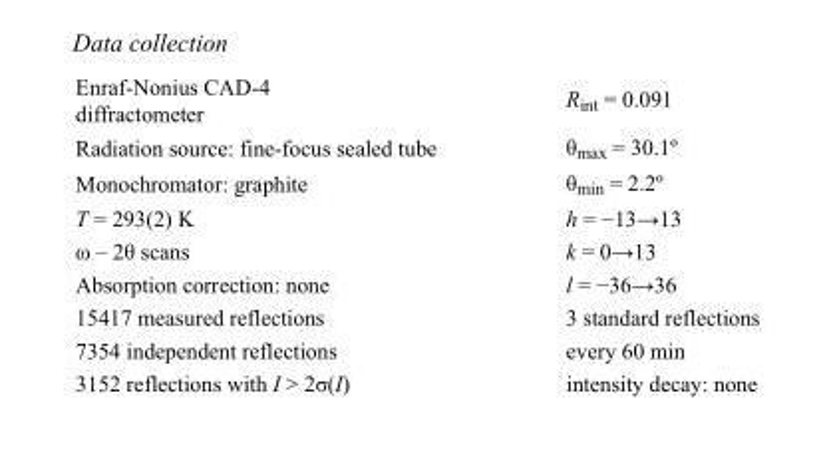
<table><tbody><tr><td>Enraf-Nonius CAD-4 diffractometer</td><td>R<sub>int</sub> = 0.091</td></tr><tr><td>Radiation source: fine-focus sealed tube</td><td>θ<sub>max</sub> = 30.1º</td></tr><tr><td>Monochromator: graphite</td><td>θ<sub>min</sub> = 2.2º</td></tr><tr><td>T = 293(2) K</td><td>h = −13→13</td></tr><tr><td>ω – 2θ scans</td><td>k = 0→13</td></tr><tr><td>Absorption correction: none</td><td>l = −36→36</td></tr><tr><td>15417 measured reflections</td><td>3 standard reflections</td></tr><tr><td>7354 independent reflections</td><td>every 60 min</td></tr><tr><td>3152 reflections with I &gt; 2σ(I)</td><td>intensity decay: none</td></tr></tbody></table>